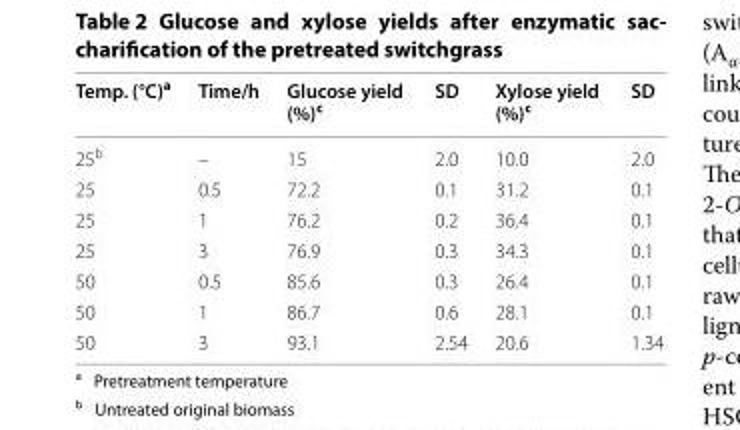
<table><thead><tr><td>Temp. (°C)<sup>a</sup></td><td>Time/h</td><td>Glucose yield (%)<sup>c</sup></td><td>SD</td><td>Xylose yield (%)<sup>c</sup></td><td>SD</td></tr></thead><tbody><tr><td>25<sup>b</sup></td><td>–</td><td>15</td><td>2.0</td><td>10.0</td><td>2.0</td></tr><tr><td>25</td><td>0.5</td><td>72.2</td><td>0.1</td><td>31.2</td><td>0.1</td></tr><tr><td>25</td><td>1</td><td>76.2</td><td>0.2</td><td>36.4</td><td>0.1</td></tr><tr><td>25</td><td>3</td><td>76.9</td><td>0.3</td><td>34.3</td><td>0.1</td></tr><tr><td>50</td><td>0.5</td><td>85.6</td><td>0.3</td><td>26.4</td><td>0.1</td></tr><tr><td>50</td><td>1</td><td>86.7</td><td>0.6</td><td>28.1</td><td>0.1</td></tr><tr><td>50</td><td>3</td><td>93.1</td><td>2.54</td><td>20.6</td><td>1.34</td></tr></tbody></table>